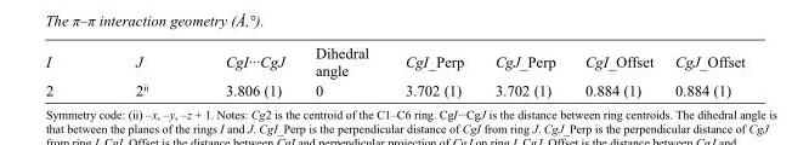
<table><tbody><tr><td>I</td><td>J</td><td>CgI···CgJ</td><td>Dihedral angle</td><td>CgI_Perp</td><td>CgJ_Perp</td><td>CgI_Offset</td><td>CgJ_Offset</td></tr><tr><td>2</td><td>2<sup>ii</sup></td><td>3.806 (1)</td><td>0</td><td>3.702 (1)</td><td>3.702 (1)</td><td>0.884 (1)</td><td>0.884 (1)</td></tr></tbody></table>